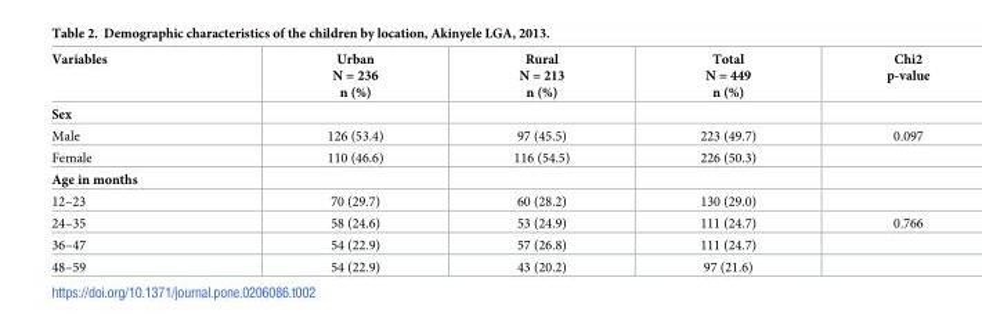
<table><thead><tr><td>Variables</td><td>Urban N = 236 n (%)</td><td>Rural N = 213 n (%)</td><td>Total N = 449 n (%)</td><td>Chi2 p-value</td></tr></thead><tbody><tr><td colspan="5">Sex</td></tr><tr><td>Male</td><td>126 (53.4)</td><td>97 (45.5)</td><td>223 (49.7)</td><td>0.097</td></tr><tr><td>Female</td><td>110 (46.6)</td><td>116 (54.5)</td><td>226 (50.3)</td><td></td></tr><tr><td colspan="5">Age in months</td></tr><tr><td>12–23</td><td>70 (29.7)</td><td>60 (28.2)</td><td>130 (29.0)</td><td></td></tr><tr><td>24–35</td><td>58 (24.6)</td><td>53 (24.9)</td><td>111 (24.7)</td><td>0.766</td></tr><tr><td>36–47</td><td>54 (22.9)</td><td>57 (26.8)</td><td>111 (24.7)</td><td></td></tr><tr><td>48–59</td><td>54 (22.9)</td><td>43 (20.2)</td><td>97 (21.6)</td><td></td></tr></tbody></table>